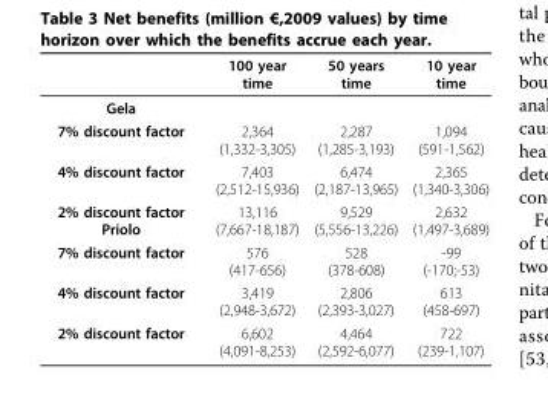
<table><thead><tr><td></td><td>100 year time</td><td>50 years time</td><td>10 year time</td></tr></thead><tbody><tr><td colspan="4">Gela</td></tr><tr><td>7% discount factor</td><td>2,364 (1,332-3,305)</td><td>2,287 (1,285-3,193)</td><td>1,094 (591-1,562)</td></tr><tr><td>4% discount factor</td><td>7,403 (2,512-15,936)</td><td>6,474 (2,187-13,965)</td><td>2,365 (1,340-3,306)</td></tr><tr><td>2% discount factor Priolo</td><td>13,116 (7,667-18,187)</td><td>9,529 (5,556-13,226)</td><td>2,632 (1,497-3,689)</td></tr><tr><td>7% discount factor</td><td>576 (417-656)</td><td>528 (378-608)</td><td>-99 (-170;-53)</td></tr><tr><td>4% discount factor</td><td>3,419 (2,948-3,672)</td><td>2,806 (2,393-3,027)</td><td>613 (458-697)</td></tr><tr><td>2% discount factor</td><td>6,602 (4,091-8,253)</td><td>4,464 (2,592-6,077)</td><td>722 (239-1,107)</td></tr></tbody></table>